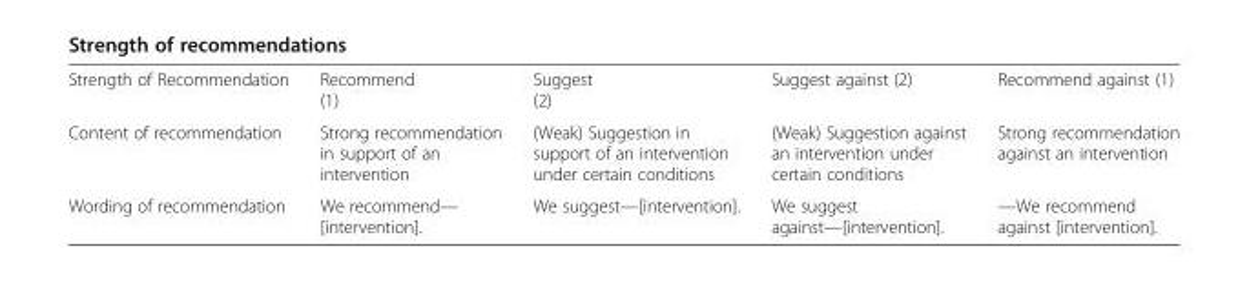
<table><tbody><tr><td>Strength of Recommendation</td><td>Recommend (1)</td><td>Suggest (2)</td><td>Suggest against (2)</td><td>Recommend against (1)</td></tr><tr><td>Content of recommendation</td><td>Strong recommendation in support of an intervention</td><td>(Weak) Suggestion in support of an intervention under certain conditions</td><td>(Weak) Suggestion against an intervention under certain conditions</td><td>Strong recommendation against an intervention</td></tr><tr><td>Wording of recommendation</td><td>We recommend— [intervention].</td><td>We suggest—[intervention].</td><td>We suggest against—[intervention].</td><td>—We recommend against [intervention].</td></tr></tbody></table>